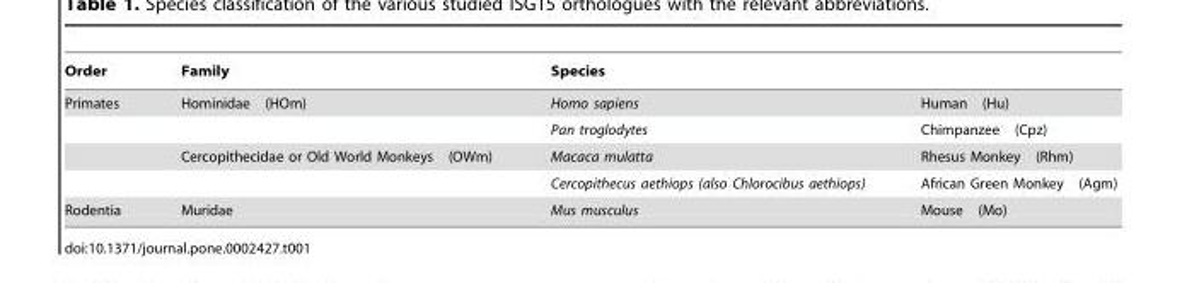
<table><thead><tr><td>Order</td><td>Family</td><td>Species</td><td></td></tr></thead><tbody><tr><td rowspan="4">Primates</td><td>Hominidae (HOm)</td><td>Homo sapiens</td><td>Human (Hu)</td></tr><tr><td></td><td>Pan troglodytes</td><td>Chimpanzee (Cpz)</td></tr><tr><td>Cercopithecidae or Old World Monkeys (OWm)</td><td>Macaca mulatta</td><td>Rhesus Monkey (Rhm)</td></tr><tr><td></td><td>Cercopithecus aethiops (also Chlorocibus aethiops)</td><td>African Green Monkey (Agm)</td></tr><tr><td>Rodentia</td><td>Muridae</td><td>Mus musculus</td><td>Mouse (Mo)</td></tr></tbody></table>